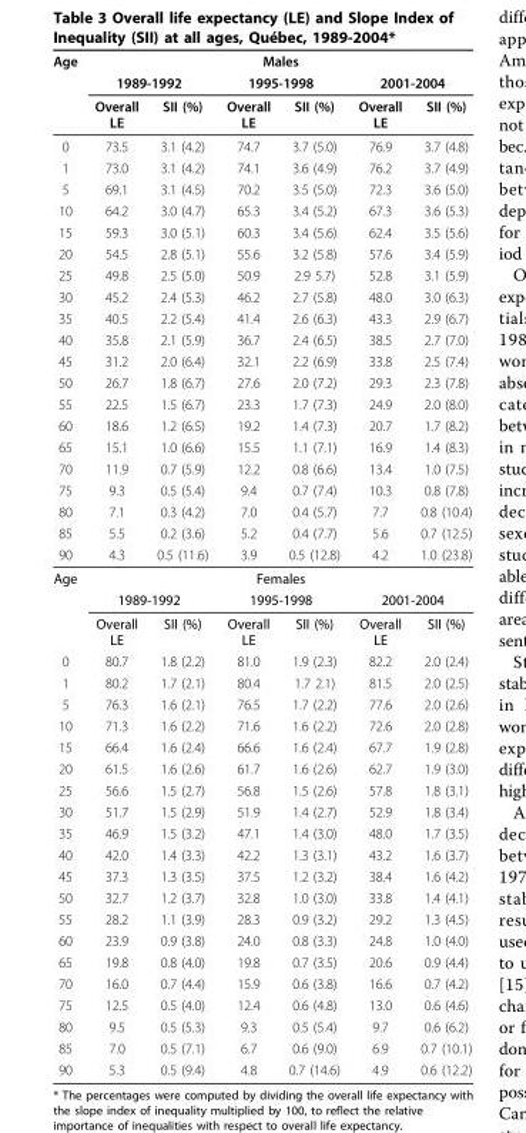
<table><thead><tr><td rowspan="3">Age</td><td colspan="6">Males</td></tr><tr><td colspan="2">1989-1992</td><td colspan="2">1995-1998</td><td colspan="2">2001-2004</td></tr><tr><td>Overall LE</td><td>SII (%)</td><td>Overall LE</td><td>SII (%)</td><td>Overall LE</td><td>SII (%)</td></tr></thead><tbody><tr><td>0</td><td>73.5</td><td>3.1 (4.2)</td><td>74.7</td><td>3.7 (5.0)</td><td>76.9</td><td>3.7 (4.8)</td></tr><tr><td>1</td><td>73.0</td><td>3.1 (4.2)</td><td>74.1</td><td>3.6 (4.9)</td><td>76.2</td><td>3.7 (4.9)</td></tr><tr><td>5</td><td>69.1</td><td>3.1 (4.5)</td><td>70.2</td><td>3.5 (5.0)</td><td>72.3</td><td>3.6 (5.0)</td></tr><tr><td>10</td><td>64.2</td><td>3.0 (4.7)</td><td>65.3</td><td>3.4 (5.2)</td><td>67.3</td><td>3.6 (5.3)</td></tr><tr><td>15</td><td>59.3</td><td>3.0 (5.1)</td><td>60.3</td><td>3.4 (5.6)</td><td>62.4</td><td>3.5 (5.6)</td></tr><tr><td>20</td><td>54.5</td><td>2.8 (5.1)</td><td>55.6</td><td>3.2 (5.8)</td><td>57.6</td><td>3.4 (5.9)</td></tr><tr><td>25</td><td>49.8</td><td>2.5 (5.0)</td><td>50.9</td><td>2.9 5.7)</td><td>52.8</td><td>3.1 (5.9)</td></tr><tr><td>30</td><td>45.2</td><td>2.4 (5.3)</td><td>46.2</td><td>2.7 (5.8)</td><td>48.0</td><td>3.0 (6.3)</td></tr><tr><td>35</td><td>40.5</td><td>2.2 (5.4)</td><td>41.4</td><td>2.6 (6.3)</td><td>43.3</td><td>2.9 (6.7)</td></tr><tr><td>40</td><td>35.8</td><td>2.1 (5.9)</td><td>36.7</td><td>2.4 (6.5)</td><td>38.5</td><td>2.7 (7.0)</td></tr><tr><td>45</td><td>31.2</td><td>2.0 (6.4)</td><td>32.1</td><td>2.2 (6.9)</td><td>33.8</td><td>2.5 (7.4)</td></tr><tr><td>50</td><td>26.7</td><td>1.8 (6.7)</td><td>27.6</td><td>2.0 (7.2)</td><td>29.3</td><td>2.3 (7.8)</td></tr><tr><td>55</td><td>22.5</td><td>1.5 (6.7)</td><td>23.3</td><td>1.7 (7.3)</td><td>24.9</td><td>2.0 (8.0)</td></tr><tr><td>60</td><td>18.6</td><td>1.2 (6.5)</td><td>19.2</td><td>1.4 (7.3)</td><td>20.7</td><td>1.7 (8.2)</td></tr><tr><td>65</td><td>15.1</td><td>1.0 (6.6)</td><td>15.5</td><td>1.1 (7.1)</td><td>16.9</td><td>1.4 (8.3)</td></tr><tr><td>70</td><td>11.9</td><td>0.7 (5.9)</td><td>12.2</td><td>0.8 (6.6)</td><td>13.4</td><td>1.0 (7.5)</td></tr><tr><td>75</td><td>9.3</td><td>0.5 (5.4)</td><td>9.4</td><td>0.7 (7.4)</td><td>10.3</td><td>0.8 (7.8)</td></tr><tr><td>80</td><td>7.1</td><td>0.3 (4.2)</td><td>7.0</td><td>0.4 (5.7)</td><td>7.7</td><td>0.8 (10.4)</td></tr><tr><td>85</td><td>5.5</td><td>0.2 (3.6)</td><td>5.2</td><td>0.4 (7.7)</td><td>5.6</td><td>0.7 (12.5)</td></tr><tr><td>90</td><td>4.3</td><td>0.5 (11.6)</td><td>3.9</td><td>0.5 (12.8)</td><td>4.2</td><td>1.0 (23.8)</td></tr><tr><td rowspan="3">Age</td><td colspan="6">Females</td></tr><tr><td colspan="2">1989-1992</td><td colspan="2">1995-1998</td><td colspan="2">2001-2004</td></tr><tr><td>Overall LE</td><td>SII (%)</td><td>Overall LE</td><td>SII (%)</td><td>Overall LE</td><td>SII (%)</td></tr><tr><td>0</td><td>80.7</td><td>1.8 (2.2)</td><td>81.0</td><td>1.9 (2.3)</td><td>82.2</td><td>2.0 (2.4)</td></tr><tr><td>1</td><td>80.2</td><td>1.7 (2.1)</td><td>80.4</td><td>1.7 2.1)</td><td>81.5</td><td>2.0 (2.5)</td></tr><tr><td>5</td><td>76.3</td><td>1.6 (2.1)</td><td>76.5</td><td>1.7 (2.2)</td><td>77.6</td><td>2.0 (2.6)</td></tr><tr><td>10</td><td>71.3</td><td>1.6 (2.2)</td><td>71.6</td><td>1.6 (2.2)</td><td>72.6</td><td>2.0 (2.8)</td></tr><tr><td>15</td><td>66.4</td><td>1.6 (2.4)</td><td>66.6</td><td>1.6 (2.4)</td><td>67.7</td><td>1.9 (2.8)</td></tr><tr><td>20</td><td>61.5</td><td>1.6 (2.6)</td><td>61.7</td><td>1.6 (2.6)</td><td>62.7</td><td>1.9 (3.0)</td></tr><tr><td>25</td><td>56.6</td><td>1.5 (2.7)</td><td>56.8</td><td>1.5 (2.6)</td><td>57.8</td><td>1.8 (3.1)</td></tr><tr><td>30</td><td>51.7</td><td>1.5 (2.9)</td><td>51.9</td><td>1.4 (2.7)</td><td>52.9</td><td>1.8 (3.4)</td></tr><tr><td>35</td><td>46.9</td><td>1.5 (3.2)</td><td>47.1</td><td>1.4 (3.0)</td><td>48.0</td><td>1.7 (3.5)</td></tr><tr><td>40</td><td>42.0</td><td>1.4 (3.3)</td><td>42.2</td><td>1.3 (3.1)</td><td>43.2</td><td>1.6 (3.7)</td></tr><tr><td>45</td><td>37.3</td><td>1.3 (3.5)</td><td>37.5</td><td>1.2 (3.2)</td><td>38.4</td><td>1.6 (4.2)</td></tr><tr><td>50</td><td>32.7</td><td>1.2 (3.7)</td><td>32.8</td><td>1.0 (3.0)</td><td>33.8</td><td>1.4 (4.1)</td></tr><tr><td>55</td><td>28.2</td><td>1.1 (3.9)</td><td>28.3</td><td>0.9 (3.2)</td><td>29.2</td><td>1.3 (4.5)</td></tr><tr><td>60</td><td>23.9</td><td>0.9 (3.8)</td><td>24.0</td><td>0.8 (3.3)</td><td>24.8</td><td>1.0 (4.0)</td></tr><tr><td>65</td><td>19.8</td><td>0.8 (4.0)</td><td>19.8</td><td>0.7 (3.5)</td><td>20.6</td><td>0.9 (4.4)</td></tr><tr><td>70</td><td>16.0</td><td>0.7 (4.4)</td><td>15.9</td><td>0.6 (3.8)</td><td>16.6</td><td>0.7 (4.2)</td></tr><tr><td>75</td><td>12.5</td><td>0.5 (4.0)</td><td>12.4</td><td>0.6 (4.8)</td><td>13.0</td><td>0.6 (4.6)</td></tr><tr><td>80</td><td>9.5</td><td>0.5 (5.3)</td><td>9.3</td><td>0.5 (5.4)</td><td>9.7</td><td>0.6 (6.2)</td></tr><tr><td>85</td><td>7.0</td><td>0.5 (7.1)</td><td>6.7</td><td>0.6 (9.0)</td><td>6.9</td><td>0.7 (10.1)</td></tr><tr><td>90</td><td>5.3</td><td>0.5 (9.4)</td><td>4.8</td><td>0.7 (14.6)</td><td>4.9</td><td>0.6 (12.2)</td></tr></tbody></table>